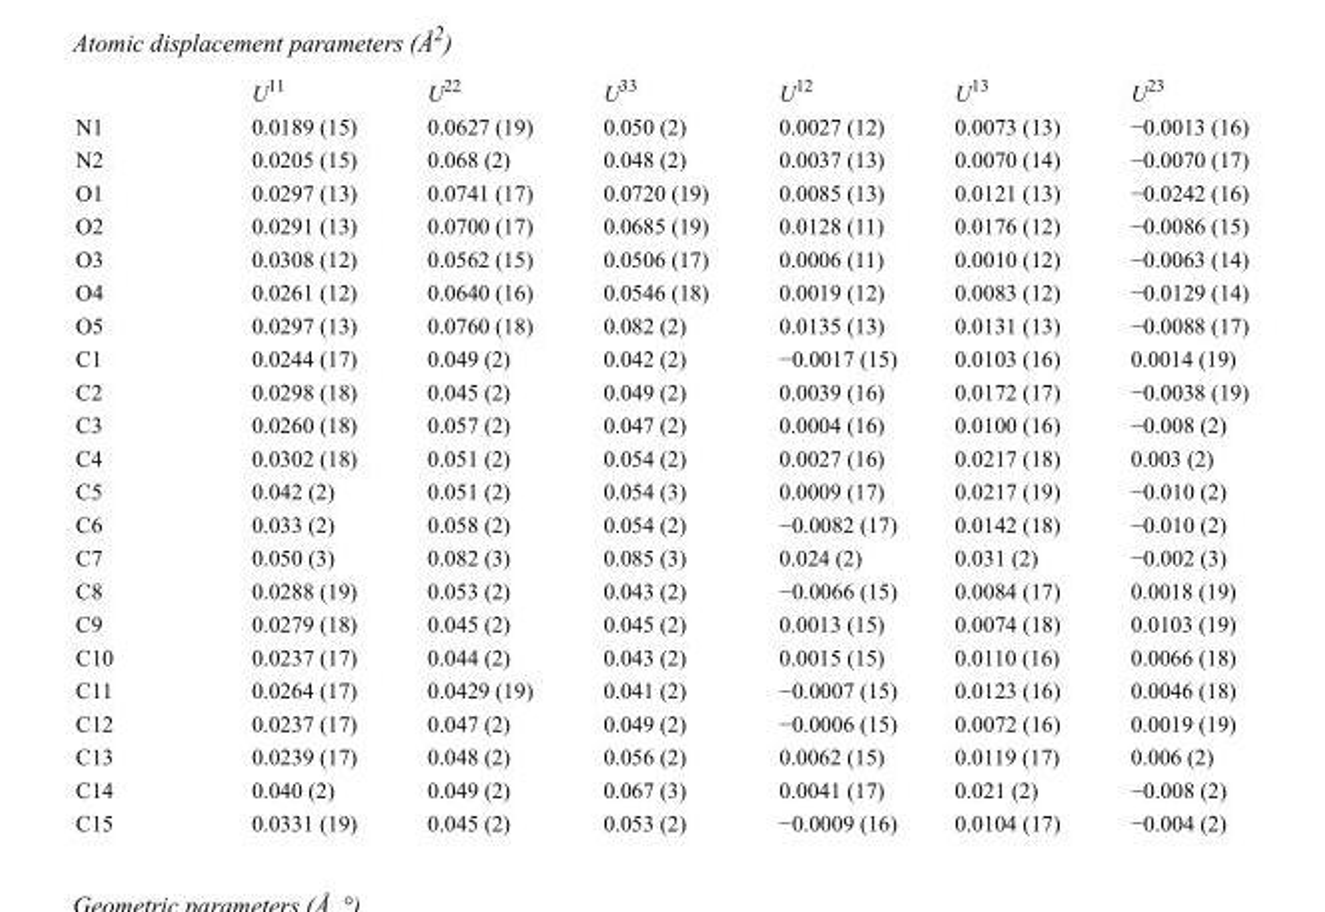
<table><thead><tr><td></td><td>U<sup>11</sup></td><td>U<sup>22</sup></td><td>U<sup>33</sup></td><td>U<sup>12</sup></td><td>U<sup>13</sup></td><td>U<sup>23</sup></td></tr></thead><tbody><tr><td>N1</td><td>0.0189 (15)</td><td>0.0627 (19)</td><td>0.050 (2)</td><td>0.0027 (12)</td><td>0.0073 (13)</td><td>−0.0013 (16)</td></tr><tr><td>N2</td><td>0.0205 (15)</td><td>0.068 (2)</td><td>0.048 (2)</td><td>0.0037 (13)</td><td>0.0070 (14)</td><td>−0.0070 (17)</td></tr><tr><td>O1</td><td>0.0297 (13)</td><td>0.0741 (17)</td><td>0.0720 (19)</td><td>0.0085 (13)</td><td>0.0121 (13)</td><td>−0.0242 (16)</td></tr><tr><td>O2</td><td>0.0291 (13)</td><td>0.0700 (17)</td><td>0.0685 (19)</td><td>0.0128 (11)</td><td>0.0176 (12)</td><td>−0.0086 (15)</td></tr><tr><td>O3</td><td>0.0308 (12)</td><td>0.0562 (15)</td><td>0.0506 (17)</td><td>0.0006 (11)</td><td>0.0010 (12)</td><td>−0.0063 (14)</td></tr><tr><td>O4</td><td>0.0261 (12)</td><td>0.0640 (16)</td><td>0.0546 (18)</td><td>0.0019 (12)</td><td>0.0083 (12)</td><td>−0.0129 (14)</td></tr><tr><td>O5</td><td>0.0297 (13)</td><td>0.0760 (18)</td><td>0.082 (2)</td><td>0.0135 (13)</td><td>0.0131 (13)</td><td>−0.0088 (17)</td></tr><tr><td>C1</td><td>0.0244 (17)</td><td>0.049 (2)</td><td>0.042 (2)</td><td>−0.0017 (15)</td><td>0.0103 (16)</td><td>0.0014 (19)</td></tr><tr><td>C2</td><td>0.0298 (18)</td><td>0.045 (2)</td><td>0.049 (2)</td><td>0.0039 (16)</td><td>0.0172 (17)</td><td>−0.0038 (19)</td></tr><tr><td>C3</td><td>0.0260 (18)</td><td>0.057 (2)</td><td>0.047 (2)</td><td>0.0004 (16)</td><td>0.0100 (16)</td><td>−0.008 (2)</td></tr><tr><td>C4</td><td>0.0302 (18)</td><td>0.051 (2)</td><td>0.054 (2)</td><td>0.0027 (16)</td><td>0.0217 (18)</td><td>0.003 (2)</td></tr><tr><td>C5</td><td>0.042 (2)</td><td>0.051 (2)</td><td>0.054 (3)</td><td>0.0009 (17)</td><td>0.0217 (19)</td><td>−0.010 (2)</td></tr><tr><td>C6</td><td>0.033 (2)</td><td>0.058 (2)</td><td>0.054 (2)</td><td>−0.0082 (17)</td><td>0.0142 (18)</td><td>−0.010 (2)</td></tr><tr><td>C7</td><td>0.050 (3)</td><td>0.082 (3)</td><td>0.085 (3)</td><td>0.024 (2)</td><td>0.031 (2)</td><td>−0.002 (3)</td></tr><tr><td>C8</td><td>0.0288 (19)</td><td>0.053 (2)</td><td>0.043 (2)</td><td>−0.0066 (15)</td><td>0.0084 (17)</td><td>0.0018 (19)</td></tr><tr><td>C9</td><td>0.0279 (18)</td><td>0.045 (2)</td><td>0.045 (2)</td><td>0.0013 (15)</td><td>0.0074 (18)</td><td>0.0103 (19)</td></tr><tr><td>C10</td><td>0.0237 (17)</td><td>0.044 (2)</td><td>0.043 (2)</td><td>0.0015 (15)</td><td>0.0110 (16)</td><td>0.0066 (18)</td></tr><tr><td>C11</td><td>0.0264 (17)</td><td>0.0429 (19)</td><td>0.041 (2)</td><td>−0.0007 (15)</td><td>0.0123 (16)</td><td>0.0046 (18)</td></tr><tr><td>C12</td><td>0.0237 (17)</td><td>0.047 (2)</td><td>0.049 (2)</td><td>−0.0006 (15)</td><td>0.0072 (16)</td><td>0.0019 (19)</td></tr><tr><td>C13</td><td>0.0239 (17)</td><td>0.048 (2)</td><td>0.056 (2)</td><td>0.0062 (15)</td><td>0.0119 (17)</td><td>0.006 (2)</td></tr><tr><td>C14</td><td>0.040 (2)</td><td>0.049 (2)</td><td>0.067 (3)</td><td>0.0041 (17)</td><td>0.021 (2)</td><td>−0.008 (2)</td></tr><tr><td>C15</td><td>0.0331 (19)</td><td>0.045 (2)</td><td>0.053 (2)</td><td>−0.0009 (16)</td><td>0.0104 (17)</td><td>−0.004 (2)</td></tr></tbody></table>